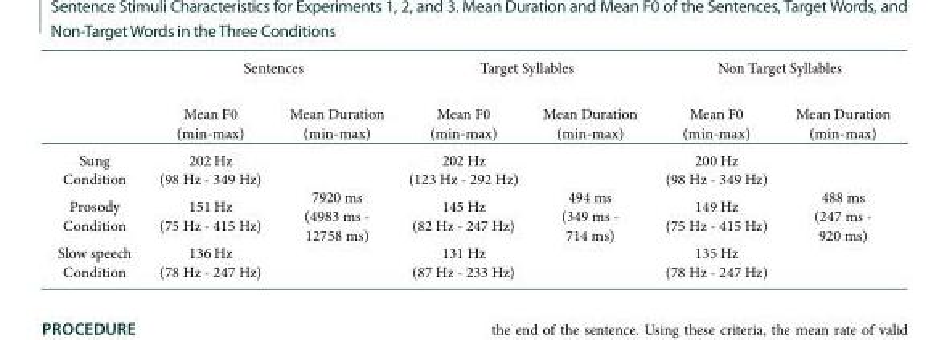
<table><thead><tr><td rowspan="2"></td><td colspan="2">Sentences</td><td colspan="2">Target Syllables</td><td colspan="2">Non Target Syllables</td></tr><tr><td>Mean F0 (min-max)</td><td>Mean Duration (min-max)</td><td>Mean F0 (min-max)</td><td>Mean Duration (min-max)</td><td>Mean F0 (min-max)</td><td>Mean Duration (min-max)</td></tr></thead><tbody><tr><td>Sung Condition</td><td>202 Hz (98 Hz - 349 Hz)</td><td rowspan="3">7920 ms (4983 ms - 12758 ms)</td><td>202 Hz (123 Hz - 292 Hz)</td><td rowspan="3">494 ms (349 ms - 714 ms)</td><td>200 Hz (98 Hz - 349 Hz)</td><td rowspan="3">488 ms (247 ms - 920 ms)</td></tr><tr><td>Prosody Condition</td><td>151 Hz (75 Hz - 415 Hz)</td><td>145 Hz (82 Hz - 247 Hz)</td><td>149 Hz (75 Hz - 415 Hz)</td></tr><tr><td>Slow speech Condition</td><td>136 Hz (78 Hz - 247 Hz)</td><td>131 Hz (87 Hz - 233 Hz)</td><td>135 Hz (78 Hz - 247 Hz)</td></tr></tbody></table>